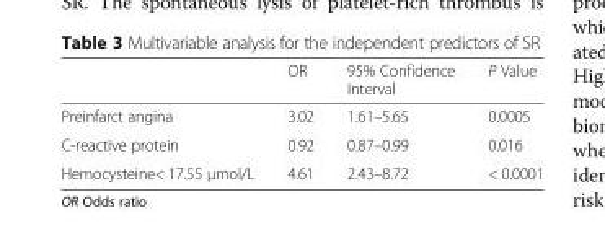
<table><thead><tr><td></td><td>OR</td><td>95% Confidence Interval</td><td>P Value</td></tr></thead><tbody><tr><td>Preinfarct angina</td><td>3.02</td><td>1.61–5.65</td><td>0.0005</td></tr><tr><td>C-reactive protein</td><td>0.92</td><td>0.87–0.99</td><td>0.016</td></tr><tr><td>Hemocysteine&lt; 17.55 μmol/L</td><td>4.61</td><td>2.43–8.72</td><td>&lt; 0.0001</td></tr></tbody></table>